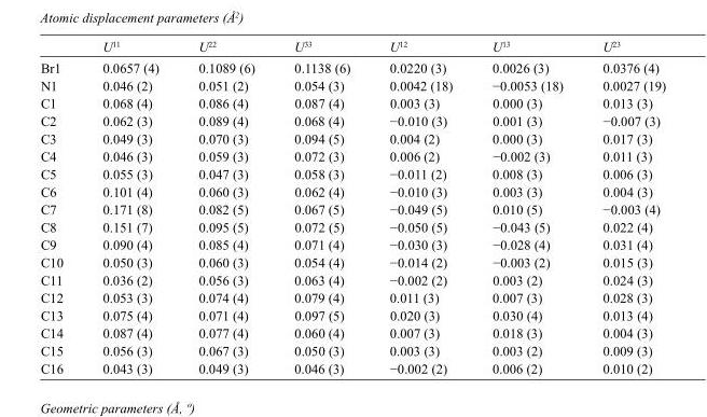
<table><thead><tr><td></td><td>U<sup>11</sup></td><td>U<sup>22</sup></td><td>U<sup>33</sup></td><td>U<sup>12</sup></td><td>U<sup>13</sup></td><td>U<sup>23</sup></td></tr></thead><tbody><tr><td>Br1</td><td>0.0657 (4)</td><td>0.1089 (6)</td><td>0.1138 (6)</td><td>0.0220 (3)</td><td>0.0026 (3)</td><td>0.0376 (4)</td></tr><tr><td>N1</td><td>0.046 (2)</td><td>0.051 (2)</td><td>0.054 (3)</td><td>0.0042 (18)</td><td>−0.0053 (18)</td><td>0.0027 (19)</td></tr><tr><td>C1</td><td>0.068 (4)</td><td>0.086 (4)</td><td>0.087 (4)</td><td>0.003 (3)</td><td>0.000 (3)</td><td>0.013 (3)</td></tr><tr><td>C2</td><td>0.062 (3)</td><td>0.089 (4)</td><td>0.068 (4)</td><td>−0.010 (3)</td><td>0.001 (3)</td><td>−0.007 (3)</td></tr><tr><td>C3</td><td>0.049 (3)</td><td>0.070 (3)</td><td>0.094 (5)</td><td>0.004 (2)</td><td>0.000 (3)</td><td>0.017 (3)</td></tr><tr><td>C4</td><td>0.046 (3)</td><td>0.059 (3)</td><td>0.072 (3)</td><td>0.006 (2)</td><td>−0.002 (3)</td><td>0.011 (3)</td></tr><tr><td>C5</td><td>0.055 (3)</td><td>0.047 (3)</td><td>0.058 (3)</td><td>−0.011 (2)</td><td>0.008 (3)</td><td>0.006 (3)</td></tr><tr><td>C6</td><td>0.101 (4)</td><td>0.060 (3)</td><td>0.062 (4)</td><td>−0.010 (3)</td><td>0.003 (3)</td><td>0.004 (3)</td></tr><tr><td>C7</td><td>0.171 (8)</td><td>0.082 (5)</td><td>0.067 (5)</td><td>−0.049 (5)</td><td>0.010 (5)</td><td>−0.003 (4)</td></tr><tr><td>C8</td><td>0.151 (7)</td><td>0.095 (5)</td><td>0.072 (5)</td><td>−0.050 (5)</td><td>−0.043 (5)</td><td>0.022 (4)</td></tr><tr><td>C9</td><td>0.090 (4)</td><td>0.085 (4)</td><td>0.071 (4)</td><td>−0.030 (3)</td><td>−0.028 (4)</td><td>0.031 (4)</td></tr><tr><td>C10</td><td>0.050 (3)</td><td>0.060 (3)</td><td>0.054 (4)</td><td>−0.014 (2)</td><td>−0.003 (2)</td><td>0.015 (3)</td></tr><tr><td>C11</td><td>0.036 (2)</td><td>0.056 (3)</td><td>0.063 (4)</td><td>−0.002 (2)</td><td>0.003 (2)</td><td>0.024 (3)</td></tr><tr><td>C12</td><td>0.053 (3)</td><td>0.074 (4)</td><td>0.079 (4)</td><td>0.011 (3)</td><td>0.007 (3)</td><td>0.028 (3)</td></tr><tr><td>C13</td><td>0.075 (4)</td><td>0.071 (4)</td><td>0.097 (5)</td><td>0.020 (3)</td><td>0.030 (4)</td><td>0.013 (4)</td></tr><tr><td>C14</td><td>0.087 (4)</td><td>0.077 (4)</td><td>0.060 (4)</td><td>0.007 (3)</td><td>0.018 (3)</td><td>0.004 (3)</td></tr><tr><td>C15</td><td>0.056 (3)</td><td>0.067 (3)</td><td>0.050 (3)</td><td>0.003 (3)</td><td>0.003 (2)</td><td>0.009 (3)</td></tr><tr><td>C16</td><td>0.043 (3)</td><td>0.049 (3)</td><td>0.046 (3)</td><td>−0.002 (2)</td><td>0.006 (2)</td><td>0.010 (2)</td></tr></tbody></table>